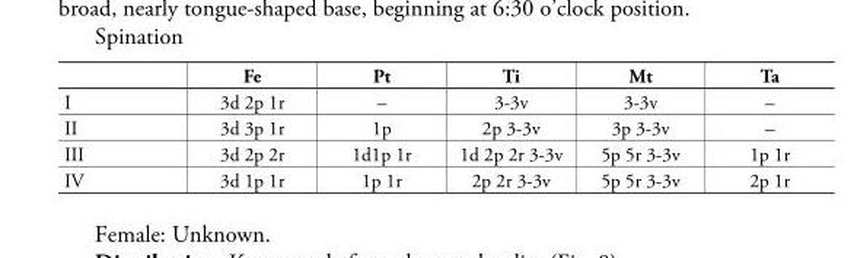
<table><thead><tr><td></td><td>Fe</td><td>Pt</td><td>Ti</td><td>Mt</td><td>Ta</td></tr></thead><tbody><tr><td>I</td><td>3d 2p 1r</td><td>–</td><td>3-3v</td><td>3-3v</td><td>–</td></tr><tr><td>II</td><td>3d 3p 1r</td><td>1p</td><td>2p 3-3v</td><td>3p 3-3v</td><td>–</td></tr><tr><td>III</td><td>3d 2p 2r</td><td>1d1p 1r</td><td>1d 2p 2r 3-3v</td><td>5p 5r 3-3v</td><td>1p 1r</td></tr><tr><td>IV</td><td>3d 1p 1r</td><td>1p 1r</td><td>2p 2r 3-3v</td><td>5p 5r 3-3v</td><td>2p 1r</td></tr></tbody></table>